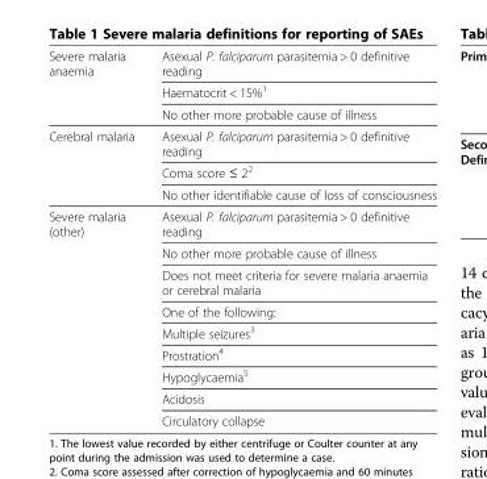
<table><tbody><tr><td rowspan="3">Severe malaria anaemia</td><td>Asexual P. falciparum parasitemia &gt; 0 definitive reading</td></tr><tr><td>Haematocrit &lt; 15%<sup>1</sup></td></tr><tr><td>No other more probable cause of illness</td></tr><tr><td rowspan="3">Cerebral malaria</td><td>Asexual P. falciparum parasitemia &gt; 0 definitive reading</td></tr><tr><td>Coma score ≤ 2<sup>2</sup></td></tr><tr><td>No other identifiable cause of loss of consciousness</td></tr><tr><td rowspan="9">Severe malaria (other)</td><td>Asexual P. falciparum parasitemia &gt; 0 definitive reading</td></tr><tr><td>No other more probable cause of illness</td></tr><tr><td>Does not meet criteria for severe malaria anaemia or cerebral malaria</td></tr><tr><td>One of the following:</td></tr><tr><td>Multiple seizures<sup>3</sup></td></tr><tr><td>Prostration<sup>4</sup></td></tr><tr><td>Hypoglycaemia<sup>5</sup></td></tr><tr><td>Acidosis</td></tr><tr><td>Circulatory collapse</td></tr></tbody></table>